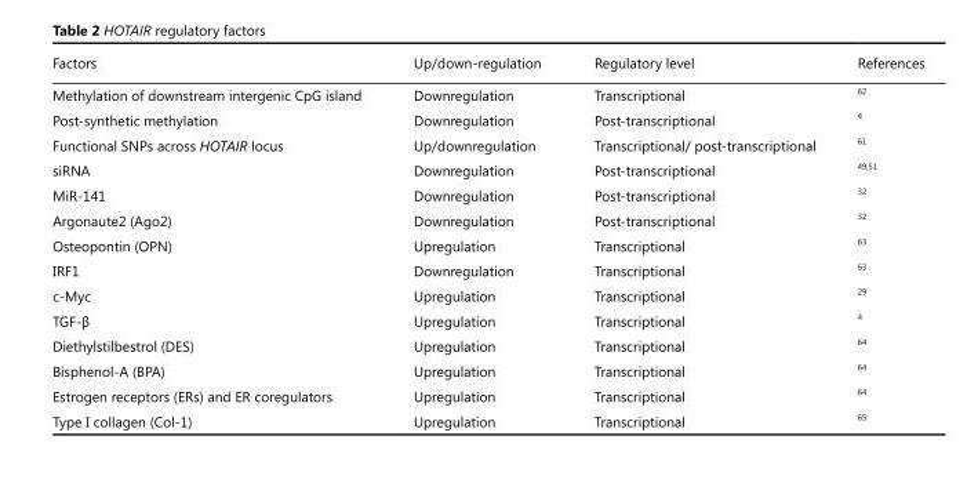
<table><thead><tr><td>Factors</td><td>Up/down-regulation</td><td>Regulatory level</td><td>References</td></tr></thead><tbody><tr><td>Methylation of downstream intergenic CpG island</td><td>Downregulation</td><td>Transcriptional</td><td><sup>62</sup></td></tr><tr><td>Post-synthetic methylation</td><td>Downregulation</td><td>Post-transcriptional</td><td><sup>4</sup></td></tr><tr><td>Functional SNPs across HOTAIR locus</td><td>Up/downregulation</td><td>Transcriptional/ post-transcriptional</td><td><sup>61</sup></td></tr><tr><td>siRNA</td><td>Downregulation</td><td>Post-transcriptional</td><td><sup>49</sup>,<sup>51</sup></td></tr><tr><td>MiR-141</td><td>Downregulation</td><td>Post-transcriptional</td><td><sup>32</sup></td></tr><tr><td>Argonaute2 (Ago2)</td><td>Downregulation</td><td>Post-transcriptional</td><td><sup>32</sup></td></tr><tr><td>Osteopontin (OPN)</td><td>Upregulation</td><td>Transcriptional</td><td><sup>63</sup></td></tr><tr><td>IRF1</td><td>Downregulation</td><td>Transcriptional</td><td><sup>63</sup></td></tr><tr><td>c-Myc</td><td>Upregulation</td><td>Transcriptional</td><td><sup>29</sup></td></tr><tr><td>TGF-β</td><td>Upregulation</td><td>Transcriptional</td><td><sup>4</sup></td></tr><tr><td>Diethylstilbestrol (DES)</td><td>Upregulation</td><td>Transcriptional</td><td><sup>64</sup></td></tr><tr><td>Bisphenol-A (BPA)</td><td>Upregulation</td><td>Transcriptional</td><td><sup>64</sup></td></tr><tr><td>Estrogen receptors (ERs) and ER coregulators</td><td>Upregulation</td><td>Transcriptional</td><td><sup>64</sup></td></tr><tr><td>Type I collagen (Col-1)</td><td>Upregulation</td><td>Transcriptional</td><td><sup>65</sup></td></tr></tbody></table>